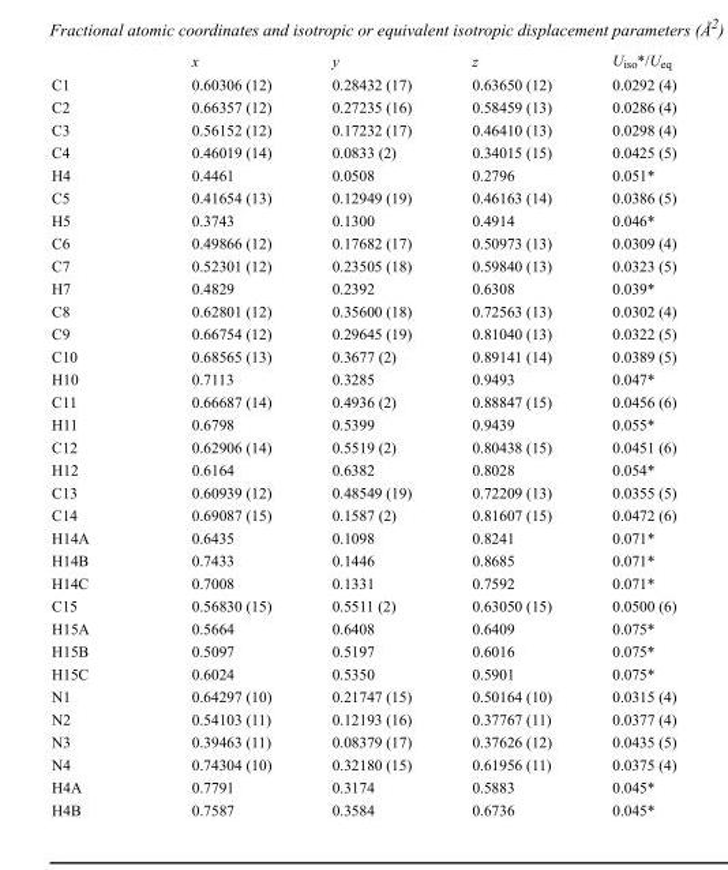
<table><thead><tr><td></td><td>x</td><td>y</td><td>z</td><td>U<sub>iso</sub>*/U<sub>eq</sub></td></tr></thead><tbody><tr><td>C1</td><td>0.60306 (12)</td><td>0.28432 (17)</td><td>0.63650 (12)</td><td>0.0292 (4)</td></tr><tr><td>C2</td><td>0.66357 (12)</td><td>0.27235 (16)</td><td>0.58459 (13)</td><td>0.0286 (4)</td></tr><tr><td>C3</td><td>0.56152 (12)</td><td>0.17232 (17)</td><td>0.46410 (13)</td><td>0.0298 (4)</td></tr><tr><td>C4</td><td>0.46019 (14)</td><td>0.0833 (2)</td><td>0.34015 (15)</td><td>0.0425 (5)</td></tr><tr><td>H4</td><td>0.4461</td><td>0.0508</td><td>0.2796</td><td>0.051*</td></tr><tr><td>C5</td><td>0.41654 (13)</td><td>0.12949 (19)</td><td>0.46163 (14)</td><td>0.0386 (5)</td></tr><tr><td>H5</td><td>0.3743</td><td>0.1300</td><td>0.4914</td><td>0.046*</td></tr><tr><td>C6</td><td>0.49866 (12)</td><td>0.17682 (17)</td><td>0.50973 (13)</td><td>0.0309 (4)</td></tr><tr><td>C7</td><td>0.52301 (12)</td><td>0.23505 (18)</td><td>0.59840 (13)</td><td>0.0323 (5)</td></tr><tr><td>H7</td><td>0.4829</td><td>0.2392</td><td>0.6308</td><td>0.039*</td></tr><tr><td>C8</td><td>0.62801 (12)</td><td>0.35600 (18)</td><td>0.72563 (13)</td><td>0.0302 (4)</td></tr><tr><td>C9</td><td>0.66754 (12)</td><td>0.29645 (19)</td><td>0.81040 (13)</td><td>0.0322 (5)</td></tr><tr><td>C10</td><td>0.68565 (13)</td><td>0.3677 (2)</td><td>0.89141 (14)</td><td>0.0389 (5)</td></tr><tr><td>H10</td><td>0.7113</td><td>0.3285</td><td>0.9493</td><td>0.047*</td></tr><tr><td>C11</td><td>0.66687 (14)</td><td>0.4936 (2)</td><td>0.88847 (15)</td><td>0.0456 (6)</td></tr><tr><td>H11</td><td>0.6798</td><td>0.5399</td><td>0.9439</td><td>0.055*</td></tr><tr><td>C12</td><td>0.62906 (14)</td><td>0.5519 (2)</td><td>0.80438 (15)</td><td>0.0451 (6)</td></tr><tr><td>H12</td><td>0.6164</td><td>0.6382</td><td>0.8028</td><td>0.054*</td></tr><tr><td>C13</td><td>0.60939 (12)</td><td>0.48549 (19)</td><td>0.72209 (13)</td><td>0.0355 (5)</td></tr><tr><td>C14</td><td>0.69087 (15)</td><td>0.1587 (2)</td><td>0.81607 (15)</td><td>0.0472 (6)</td></tr><tr><td>H14A</td><td>0.6435</td><td>0.1098</td><td>0.8241</td><td>0.071*</td></tr><tr><td>H14B</td><td>0.7433</td><td>0.1446</td><td>0.8685</td><td>0.071*</td></tr><tr><td>H14C</td><td>0.7008</td><td>0.1331</td><td>0.7592</td><td>0.071*</td></tr><tr><td>C15</td><td>0.56830 (15)</td><td>0.5511 (2)</td><td>0.63050 (15)</td><td>0.0500 (6)</td></tr><tr><td>H15A</td><td>0.5664</td><td>0.6408</td><td>0.6409</td><td>0.075*</td></tr><tr><td>H15B</td><td>0.5097</td><td>0.5197</td><td>0.6016</td><td>0.075*</td></tr><tr><td>H15C</td><td>0.6024</td><td>0.5350</td><td>0.5901</td><td>0.075*</td></tr><tr><td>N1</td><td>0.64297 (10)</td><td>0.21747 (15)</td><td>0.50164 (10)</td><td>0.0315 (4)</td></tr><tr><td>N2</td><td>0.54103 (11)</td><td>0.12193 (16)</td><td>0.37767 (11)</td><td>0.0377 (4)</td></tr><tr><td>N3</td><td>0.39463 (11)</td><td>0.08379 (17)</td><td>0.37626 (12)</td><td>0.0435 (5)</td></tr><tr><td>N4</td><td>0.74304 (10)</td><td>0.32180 (15)</td><td>0.61956 (11)</td><td>0.0375 (4)</td></tr><tr><td>H4A</td><td>0.7791</td><td>0.3174</td><td>0.5883</td><td>0.045*</td></tr><tr><td>H4B</td><td>0.7587</td><td>0.3584</td><td>0.6736</td><td>0.045*</td></tr></tbody></table>